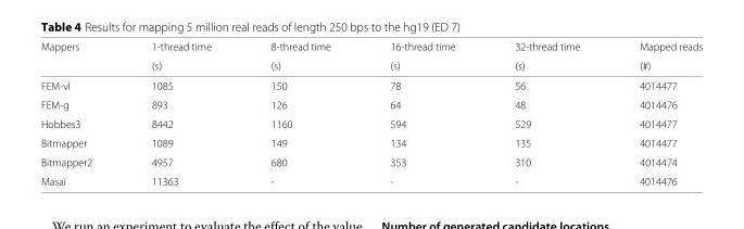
<table><thead><tr><td rowspan="2">Mappers</td><td rowspan="2">1-thread time (s)</td><td rowspan="2">8-thread time (s)</td><td rowspan="2">16-thread time (s)</td><td rowspan="2">32-thread time (s)</td><td rowspan="2">Mapped reads (#)</td></tr><tr></tr></thead><tbody><tr><td>FEM-vl</td><td>1085</td><td>150</td><td>78</td><td>56</td><td>4014477</td></tr><tr><td>FEM-g</td><td>893</td><td>126</td><td>64</td><td>48</td><td>4014476</td></tr><tr><td>Hobbes3</td><td>8442</td><td>1160</td><td>594</td><td>529</td><td>4014477</td></tr><tr><td>Bitmapper</td><td>1089</td><td>149</td><td>134</td><td>135</td><td>4014477</td></tr><tr><td>Bitmapper2</td><td>4957</td><td>680</td><td>353</td><td>310</td><td>4014474</td></tr><tr><td>Masai</td><td>11363</td><td>-</td><td>-</td><td>-</td><td>4014476</td></tr></tbody></table>